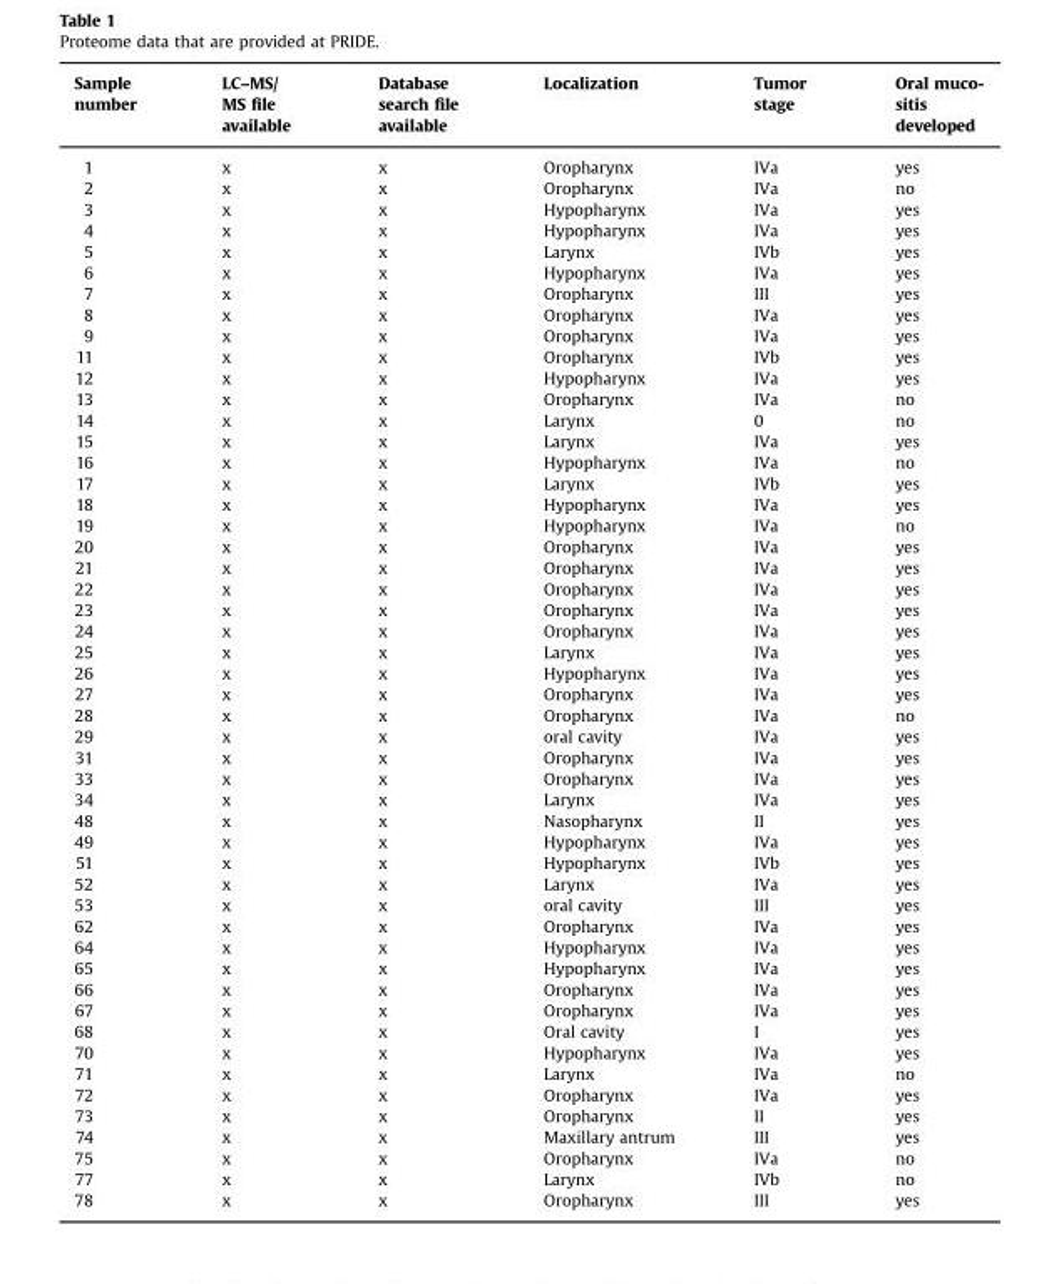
<table><thead><tr><td>Sample number</td><td>LC–MS/ MS file available</td><td>Database search file available</td><td>Localization</td><td>Tumor stage</td><td>Oral muco- sitis developed</td></tr></thead><tbody><tr><td>1</td><td>x</td><td>x</td><td>Oropharynx</td><td>IVa</td><td>yes</td></tr><tr><td>2</td><td>x</td><td>x</td><td>Oropharynx</td><td>IVa</td><td>no</td></tr><tr><td>3</td><td>x</td><td>x</td><td>Hypopharynx</td><td>IVa</td><td>yes</td></tr><tr><td>4</td><td>x</td><td>x</td><td>Hypopharynx</td><td>IVa</td><td>yes</td></tr><tr><td>5</td><td>x</td><td>x</td><td>Larynx</td><td>IVb</td><td>yes</td></tr><tr><td>6</td><td>x</td><td>x</td><td>Hypopharynx</td><td>IVa</td><td>yes</td></tr><tr><td>7</td><td>x</td><td>x</td><td>Oropharynx</td><td>III</td><td>yes</td></tr><tr><td>8</td><td>x</td><td>x</td><td>Oropharynx</td><td>IVa</td><td>yes</td></tr><tr><td>9</td><td>x</td><td>x</td><td>Oropharynx</td><td>IVa</td><td>yes</td></tr><tr><td>11</td><td>x</td><td>x</td><td>Oropharynx</td><td>IVb</td><td>yes</td></tr><tr><td>12</td><td>x</td><td>x</td><td>Hypopharynx</td><td>IVa</td><td>yes</td></tr><tr><td>13</td><td>x</td><td>x</td><td>Oropharynx</td><td>IVa</td><td>no</td></tr><tr><td>14</td><td>x</td><td>x</td><td>Larynx</td><td>0</td><td>no</td></tr><tr><td>15</td><td>x</td><td>x</td><td>Larynx</td><td>IVa</td><td>yes</td></tr><tr><td>16</td><td>x</td><td>x</td><td>Hypopharynx</td><td>IVa</td><td>no</td></tr><tr><td>17</td><td>x</td><td>x</td><td>Larynx</td><td>IVb</td><td>yes</td></tr><tr><td>18</td><td>x</td><td>x</td><td>Hypopharynx</td><td>IVa</td><td>yes</td></tr><tr><td>19</td><td>x</td><td>x</td><td>Hypopharynx</td><td>IVa</td><td>no</td></tr><tr><td>20</td><td>x</td><td>x</td><td>Oropharynx</td><td>IVa</td><td>yes</td></tr><tr><td>21</td><td>x</td><td>x</td><td>Oropharynx</td><td>IVa</td><td>yes</td></tr><tr><td>22</td><td>x</td><td>x</td><td>Oropharynx</td><td>IVa</td><td>yes</td></tr><tr><td>23</td><td>x</td><td>x</td><td>Oropharynx</td><td>IVa</td><td>yes</td></tr><tr><td>24</td><td>x</td><td>x</td><td>Oropharynx</td><td>IVa</td><td>yes</td></tr><tr><td>25</td><td>x</td><td>x</td><td>Larynx</td><td>IVa</td><td>yes</td></tr><tr><td>26</td><td>x</td><td>x</td><td>Hypopharynx</td><td>IVa</td><td>yes</td></tr><tr><td>27</td><td>x</td><td>x</td><td>Oropharynx</td><td>IVa</td><td>yes</td></tr><tr><td>28</td><td>x</td><td>x</td><td>Oropharynx</td><td>IVa</td><td>no</td></tr><tr><td>29</td><td>x</td><td>x</td><td>oral cavity</td><td>IVa</td><td>yes</td></tr><tr><td>31</td><td>x</td><td>x</td><td>Oropharynx</td><td>IVa</td><td>yes</td></tr><tr><td>33</td><td>x</td><td>x</td><td>Oropharynx</td><td>IVa</td><td>yes</td></tr><tr><td>34</td><td>x</td><td>x</td><td>Larynx</td><td>IVa</td><td>yes</td></tr><tr><td>48</td><td>x</td><td>x</td><td>Nasopharynx</td><td>II</td><td>yes</td></tr><tr><td>49</td><td>x</td><td>x</td><td>Hypopharynx</td><td>IVa</td><td>yes</td></tr><tr><td>51</td><td>x</td><td>x</td><td>Hypopharynx</td><td>IVb</td><td>yes</td></tr><tr><td>52</td><td>x</td><td>x</td><td>Larynx</td><td>IVa</td><td>yes</td></tr><tr><td>53</td><td>x</td><td>x</td><td>oral cavity</td><td>III</td><td>yes</td></tr><tr><td>62</td><td>x</td><td>x</td><td>Oropharynx</td><td>IVa</td><td>yes</td></tr><tr><td>64</td><td>x</td><td>x</td><td>Hypopharynx</td><td>IVa</td><td>yes</td></tr><tr><td>65</td><td>x</td><td>x</td><td>Hypopharynx</td><td>IVa</td><td>yes</td></tr><tr><td>66</td><td>x</td><td>x</td><td>Oropharynx</td><td>IVa</td><td>yes</td></tr><tr><td>67</td><td>x</td><td>x</td><td>Oropharynx</td><td>IVa</td><td>yes</td></tr><tr><td>68</td><td>x</td><td>x</td><td>Oral cavity</td><td>I</td><td>yes</td></tr><tr><td>70</td><td>x</td><td>x</td><td>Hypopharynx</td><td>IVa</td><td>yes</td></tr><tr><td>71</td><td>x</td><td>x</td><td>Larynx</td><td>IVa</td><td>no</td></tr><tr><td>72</td><td>x</td><td>x</td><td>Oropharynx</td><td>IVa</td><td>yes</td></tr><tr><td>73</td><td>x</td><td>x</td><td>Oropharynx</td><td>II</td><td>yes</td></tr><tr><td>74</td><td>x</td><td>x</td><td>Maxillary antrum</td><td>III</td><td>yes</td></tr><tr><td>75</td><td>x</td><td>x</td><td>Oropharynx</td><td>IVa</td><td>no</td></tr><tr><td>77</td><td>x</td><td>x</td><td>Larynx</td><td>IVb</td><td>no</td></tr><tr><td>78</td><td>x</td><td>x</td><td>Oropharynx</td><td>III</td><td>yes</td></tr></tbody></table>